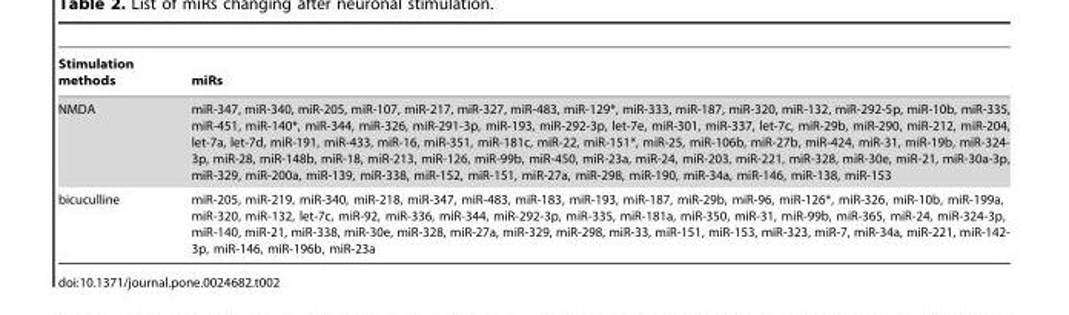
<table><thead><tr><td>Stimulation methods</td><td>miRs</td></tr></thead><tbody><tr><td>NMDA</td><td>miR-347, miR-340, miR-205, miR-107, miR-217, miR-327, miR-483, miR-129*, miR-333, miR-187, miR-320, miR-132, miR-292-5p, miR-10b, miR-335, miR-451, miR-140*, miR-344, miR-326, miR-291-3p, miR-193, miR-292-3p, let-7e, miR-301, miR-337, let-7c, miR-29b, miR-290, miR-212, miR-204, let-7a, let-7d, miR-191, miR-433, miR-16, miR-351, miR-181c, miR-22, miR-151*, miR-25, miR-106b, miR-27b, miR-424, miR-31, miR-19b, miR-324- 3p, miR-28, miR-148b, miR-18, miR-213, miR-126, miR-99b, miR-450, miR-23a, miR-24, miR-203, miR-221, miR-328, miR-30e, miR-21, miR-30a-3p, miR-329, miR-200a, miR-139, miR-338, miR-152, miR-151, miR-27a, miR-298, miR-190, miR-34a, miR-146, miR-138, miR-153</td></tr><tr><td>bicuculline</td><td>miR-205, miR-219, miR-340, miR-218, miR-347, miR-483, miR-183, miR-193, miR-187, miR-29b, miR-96, miR-126*, miR-326, miR-10b, miR-199a, miR-320, miR-132, let-7c, miR-92, miR-336, miR-344, miR-292-3p, miR-335, miR-181a, miR-350, miR-31, miR-99b, miR-365, miR-24, miR-324-3p, miR-140, miR-21, miR-338, miR-30e, miR-328, miR-27a, miR-329, miR-298, miR-33, miR-151, miR-153, miR-323, miR-7, miR-34a, miR-221, miR-142- 3p, miR-146, miR-196b, miR-23a</td></tr></tbody></table>